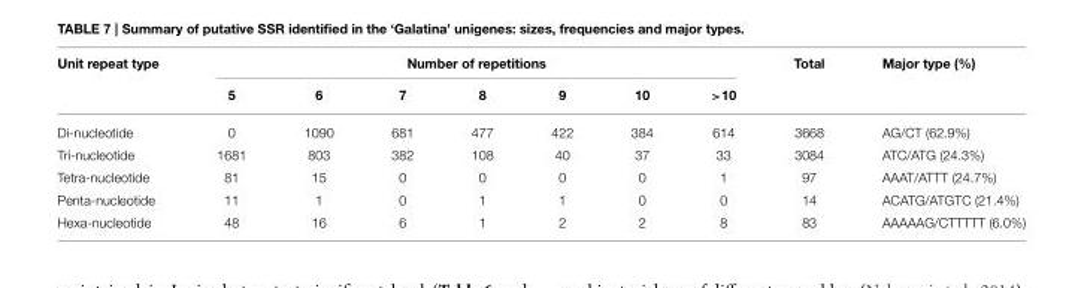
<table><thead><tr><td rowspan="2">Unit repeat type</td><td colspan="7">Number of repetitions</td><td rowspan="2">Total</td><td rowspan="2">Major type (%)</td></tr><tr><td>5</td><td>6</td><td>7</td><td>8</td><td>9</td><td>10</td><td>&gt;10</td></tr></thead><tbody><tr><td>Di-nucleotide</td><td>0</td><td>1090</td><td>681</td><td>477</td><td>422</td><td>384</td><td>614</td><td>3668</td><td>AG/CT (62.9%)</td></tr><tr><td>Tri-nucleotide</td><td>1681</td><td>803</td><td>382</td><td>108</td><td>40</td><td>37</td><td>33</td><td>3084</td><td>ATC/ATG (24.3%)</td></tr><tr><td>Tetra-nucleotide</td><td>81</td><td>15</td><td>0</td><td>0</td><td>0</td><td>0</td><td>1</td><td>97</td><td>AAAT/ATTT (24.7%)</td></tr><tr><td>Penta-nucleotide</td><td>11</td><td>1</td><td>0</td><td>1</td><td>1</td><td>0</td><td>0</td><td>14</td><td>ACATG/ATGTC (21.4%)</td></tr><tr><td>Hexa-nucleotide</td><td>48</td><td>16</td><td>6</td><td>1</td><td>2</td><td>2</td><td>8</td><td>83</td><td>AAAAAG/CTTTTT (6.0%)</td></tr></tbody></table>